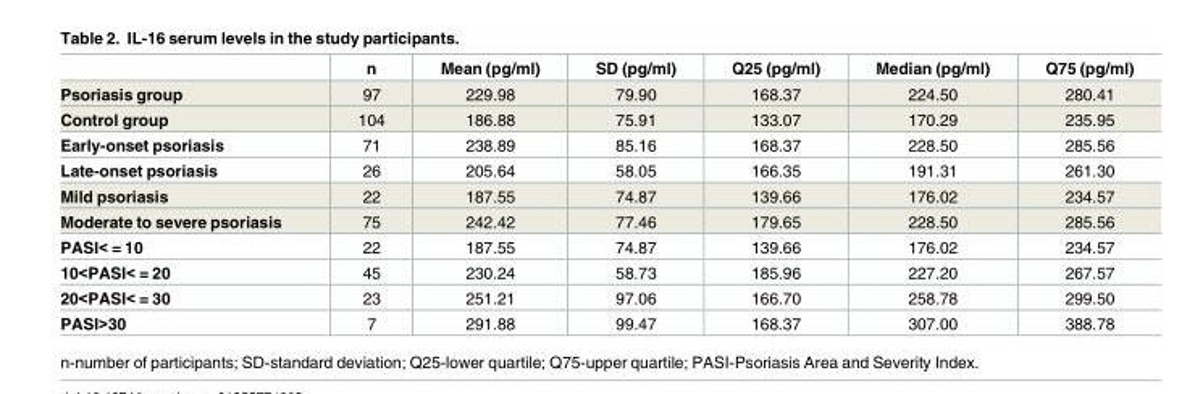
<table><thead><tr><td></td><td>n</td><td>Mean (pg/ml)</td><td>SD (pg/ml)</td><td>Q25 (pg/ml)</td><td>Median (pg/ml)</td><td>Q75 (pg/ml)</td></tr></thead><tbody><tr><td>Psoriasis group</td><td>97</td><td>229.98</td><td>79.90</td><td>168.37</td><td>224.50</td><td>280.41</td></tr><tr><td>Control group</td><td>104</td><td>186.88</td><td>75.91</td><td>133.07</td><td>170.29</td><td>235.95</td></tr><tr><td>Early-onset psoriasis</td><td>71</td><td>238.89</td><td>85.16</td><td>168.37</td><td>228.50</td><td>285.56</td></tr><tr><td>Late-onset psoriasis</td><td>26</td><td>205.64</td><td>58.05</td><td>166.35</td><td>191.31</td><td>261.30</td></tr><tr><td>Mild psoriasis</td><td>22</td><td>187.55</td><td>74.87</td><td>139.66</td><td>176.02</td><td>234.57</td></tr><tr><td>Moderate to severe psoriasis</td><td>75</td><td>242.42</td><td>77.46</td><td>179.65</td><td>228.50</td><td>285.56</td></tr><tr><td>PASI&lt; = 10</td><td>22</td><td>187.55</td><td>74.87</td><td>139.66</td><td>176.02</td><td>234.57</td></tr><tr><td>10&lt;PASI&lt; = 20</td><td>45</td><td>230.24</td><td>58.73</td><td>185.96</td><td>227.20</td><td>267.57</td></tr><tr><td>20&lt;PASI&lt; = 30</td><td>23</td><td>251.21</td><td>97.06</td><td>166.70</td><td>258.78</td><td>299.50</td></tr><tr><td>PASI&gt;30</td><td>7</td><td>291.88</td><td>99.47</td><td>168.37</td><td>307.00</td><td>388.78</td></tr></tbody></table>